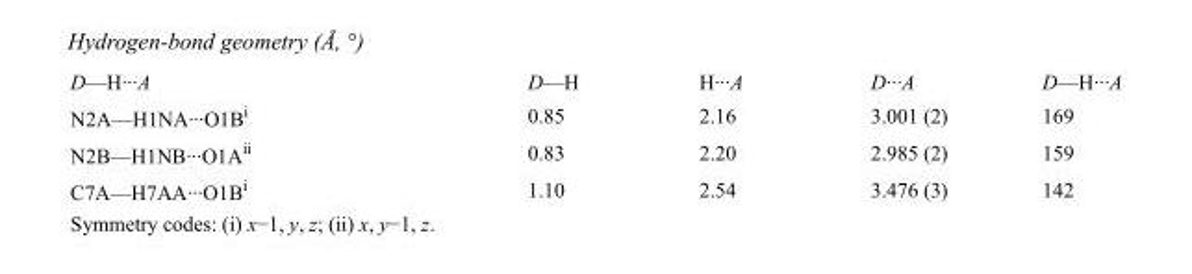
<table><tbody><tr><td>D—H···A</td><td>D—H</td><td>H···A</td><td>D···A</td><td>D—H···A</td></tr><tr><td>N2A—H1NA···O1B<sup>i</sup></td><td>0.85</td><td>2.16</td><td>3.001 (2)</td><td>169</td></tr><tr><td>N2B—H1NB···O1A<sup>ii</sup></td><td>0.83</td><td>2.20</td><td>2.985 (2)</td><td>159</td></tr><tr><td>C7A—H7AA···O1B<sup>i</sup></td><td>1.10</td><td>2.54</td><td>3.476 (3)</td><td>142</td></tr></tbody></table>